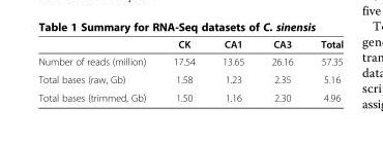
<table><thead><tr><td></td><td>CK</td><td>CA1</td><td>CA3</td><td>Total</td></tr></thead><tbody><tr><td>Number of reads (million)</td><td>17.54</td><td>13.65</td><td>26.16</td><td>57.35</td></tr><tr><td>Total bases (raw, Gb)</td><td>1.58</td><td>1.23</td><td>2.35</td><td>5.16</td></tr><tr><td>Total bases (trimmed, Gb)</td><td>1.50</td><td>1.16</td><td>2.30</td><td>4.96</td></tr></tbody></table>